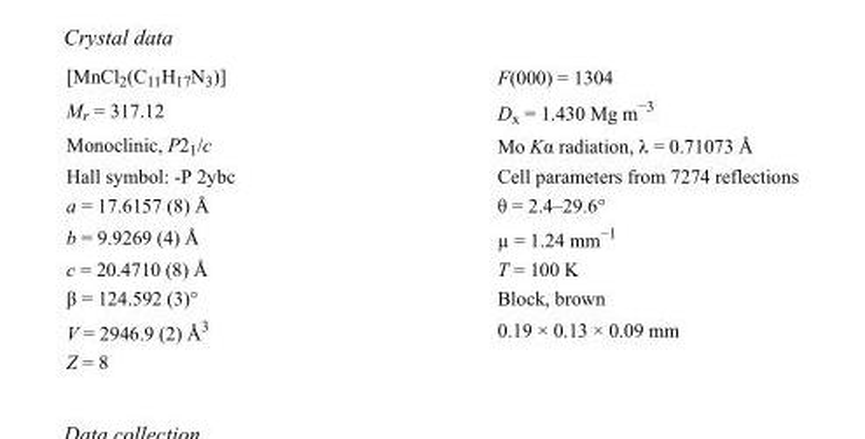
<table><tbody><tr><td>[MnCl<sub>2</sub>(C<sub>11</sub>H<sub>17</sub>N<sub>3</sub>)]</td><td>F(000) = 1304</td></tr><tr><td>M<sub>r</sub> = 317.12</td><td>D<sub>x</sub> = 1.430 Mg m<sup>−3</sup></td></tr><tr><td>Monoclinic, P2<sub>1</sub>/c</td><td>Mo Kα radiation, λ = 0.71073 Å</td></tr><tr><td>Hall symbol: -P 2ybc</td><td>Cell parameters from 7274 reflections</td></tr><tr><td>a = 17.6157 (8) Å</td><td>θ = 2.4–29.6°</td></tr><tr><td>b = 9.9269 (4) Å</td><td>µ = 1.24 mm<sup>−1</sup></td></tr><tr><td>c = 20.4710 (8) Å</td><td>T = 100 K</td></tr><tr><td>β = 124.592 (3)°</td><td>Block, brown</td></tr><tr><td>V = 2946.9 (2) Å<sup>3</sup></td><td>0.19 × 0.13 × 0.09 mm</td></tr><tr><td>Z = 8</td><td></td></tr></tbody></table>